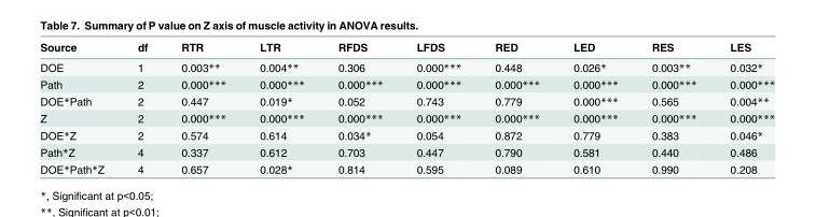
<table><thead><tr><td>Source</td><td>df</td><td>RTR</td><td>LTR</td><td>RFDS</td><td>LFDS</td><td>RED</td><td>LED</td><td>RES</td><td>LES</td></tr></thead><tbody><tr><td>DOE</td><td>1</td><td>0.003**</td><td>0.004**</td><td>0.306</td><td>0.000***</td><td>0.448</td><td>0.026*</td><td>0.003**</td><td>0.032*</td></tr><tr><td>Path</td><td>2</td><td>0.000***</td><td>0.000***</td><td>0.000***</td><td>0.000***</td><td>0.000***</td><td>0.000***</td><td>0.000***</td><td>0.000***</td></tr><tr><td>DOE*Path</td><td>2</td><td>0.447</td><td>0.019*</td><td>0.052</td><td>0.743</td><td>0.779</td><td>0.000***</td><td>0.565</td><td>0.004**</td></tr><tr><td>Z</td><td>2</td><td>0.000***</td><td>0.000***</td><td>0.000***</td><td>0.000***</td><td>0.000***</td><td>0.000***</td><td>0.000***</td><td>0.000***</td></tr><tr><td>DOE*Z</td><td>2</td><td>0.574</td><td>0.614</td><td>0.034*</td><td>0.054</td><td>0.872</td><td>0.779</td><td>0.383</td><td>0.046*</td></tr><tr><td>Path*Z</td><td>4</td><td>0.337</td><td>0.612</td><td>0.703</td><td>0.447</td><td>0.790</td><td>0.581</td><td>0.440</td><td>0.486</td></tr><tr><td>DOE*Path*Z</td><td>4</td><td>0.657</td><td>0.028*</td><td>0.814</td><td>0.595</td><td>0.089</td><td>0.610</td><td>0.990</td><td>0.208</td></tr></tbody></table>